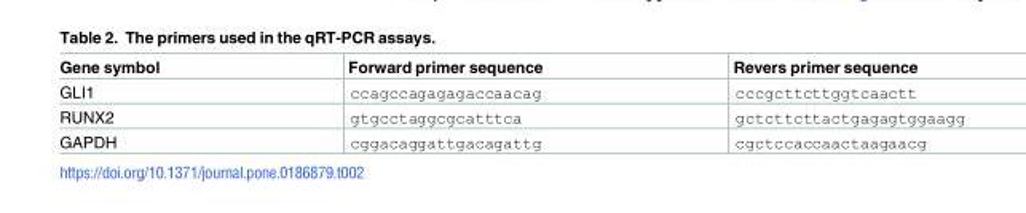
<table><thead><tr><td>Gene symbol</td><td>Forward primer sequence</td><td>Revers primer sequence</td></tr></thead><tbody><tr><td>GLI1</td><td>ccagccagagagaccaacag</td><td>cccgcttcttggtcaactt</td></tr><tr><td>RUNX2</td><td>gtgcctaggcgcatttca</td><td>gctcttcttactgagagtggaagg</td></tr><tr><td>GAPDH</td><td>cggacaggattgacagattg</td><td>cgctccaccaactaagaacg</td></tr></tbody></table>